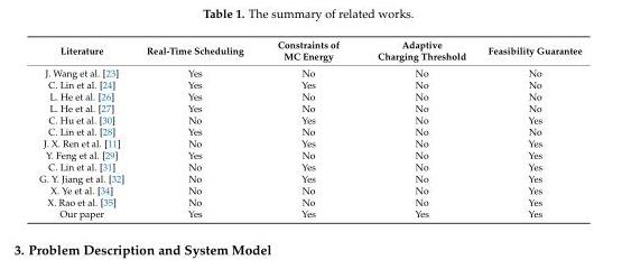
<table><thead><tr><td>Literature</td><td>Real-Time Scheduling</td><td>Constraints of MC Energy</td><td>Adaptive Charging Threshold</td><td>Feasibility Guarantee</td></tr></thead><tbody><tr><td>J. Wang et al. [23]</td><td>Yes</td><td>No</td><td>No</td><td>No</td></tr><tr><td>C. Lin et al. [24]</td><td>Yes</td><td>Yes</td><td>No</td><td>No</td></tr><tr><td>L. He et al. [26]</td><td>Yes</td><td>No</td><td>No</td><td>No</td></tr><tr><td>L. He et al. [27]</td><td>Yes</td><td>No</td><td>No</td><td>No</td></tr><tr><td>C. Hu et al. [30]</td><td>No</td><td>Yes</td><td>No</td><td>Yes</td></tr><tr><td>C. Lin et al. [28]</td><td>Yes</td><td>No</td><td>No</td><td>No</td></tr><tr><td>J. X. Ren et al. [11]</td><td>No</td><td>Yes</td><td>No</td><td>Yes</td></tr><tr><td>Y. Feng et al. [29]</td><td>Yes</td><td>No</td><td>No</td><td>Yes</td></tr><tr><td>C. Lin et al. [31]</td><td>No</td><td>Yes</td><td>No</td><td>Yes</td></tr><tr><td>G. Y. Jiang et al. [32]</td><td>No</td><td>Yes</td><td>No</td><td>Yes</td></tr><tr><td>X. Ye et al. [34]</td><td>No</td><td>No</td><td>No</td><td>Yes</td></tr><tr><td>X. Rao et al. [35]</td><td>No</td><td>No</td><td>No</td><td>Yes</td></tr><tr><td>Our paper</td><td>Yes</td><td>Yes</td><td>Yes</td><td>Yes</td></tr></tbody></table>